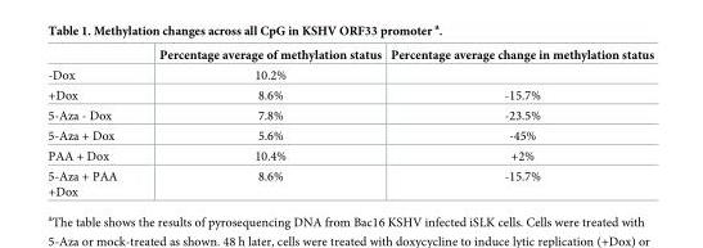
<table><thead><tr><td></td><td>Percentage average of methylation status</td><td>Percentage average change in methylation status</td></tr></thead><tbody><tr><td>-Dox</td><td>10.2%</td><td></td></tr><tr><td>+Dox</td><td>8.6%</td><td>-15.7%</td></tr><tr><td>5-Aza - Dox</td><td>7.8%</td><td>-23.5%</td></tr><tr><td>5-Aza + Dox</td><td>5.6%</td><td>-45%</td></tr><tr><td>PAA + Dox</td><td>10.4%</td><td>+2%</td></tr><tr><td>5-Aza + PAA +Dox</td><td>8.6%</td><td>-15.7%</td></tr></tbody></table>